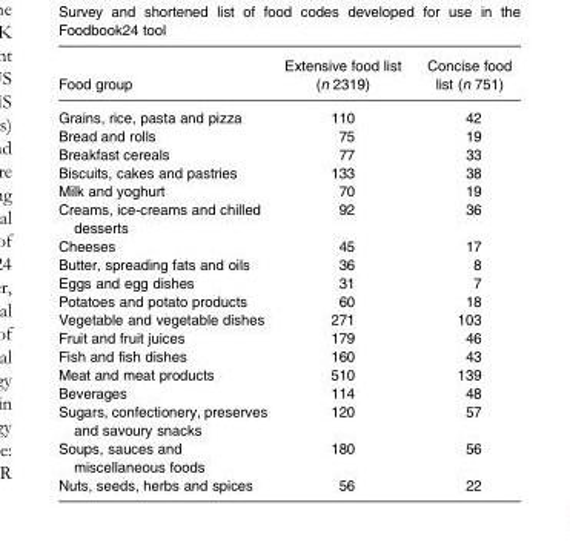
<table><thead><tr><td>Food group</td><td>Extensive food list (n 2319)</td><td>Concise food list (n 751)</td></tr></thead><tbody><tr><td>Grains, rice, pasta and pizza</td><td>110</td><td>42</td></tr><tr><td>Bread and rolls</td><td>75</td><td>19</td></tr><tr><td>Breakfast cereals</td><td>77</td><td>33</td></tr><tr><td>Biscuits, cakes and pastries</td><td>133</td><td>38</td></tr><tr><td>Milk and yoghurt</td><td>70</td><td>19</td></tr><tr><td>Creams, ice-creams and chilled desserts</td><td>92</td><td>36</td></tr><tr><td>Cheeses</td><td>45</td><td>17</td></tr><tr><td>Butter, spreading fats and oils</td><td>36</td><td>8</td></tr><tr><td>Eggs and egg dishes</td><td>31</td><td>7</td></tr><tr><td>Potatoes and potato products</td><td>60</td><td>18</td></tr><tr><td>Vegetable and vegetable dishes</td><td>271</td><td>103</td></tr><tr><td>Fruit and fruit juices</td><td>179</td><td>46</td></tr><tr><td>Fish and fish dishes</td><td>160</td><td>43</td></tr><tr><td>Meat and meat products</td><td>510</td><td>139</td></tr><tr><td>Beverages</td><td>114</td><td>48</td></tr><tr><td>Sugars, confectionery, preserves and savoury snacks</td><td>120</td><td>57</td></tr><tr><td>Soups, sauces and miscellaneous foods</td><td>180</td><td>56</td></tr><tr><td>Nuts, seeds, herbs and spices</td><td>56</td><td>22</td></tr></tbody></table>